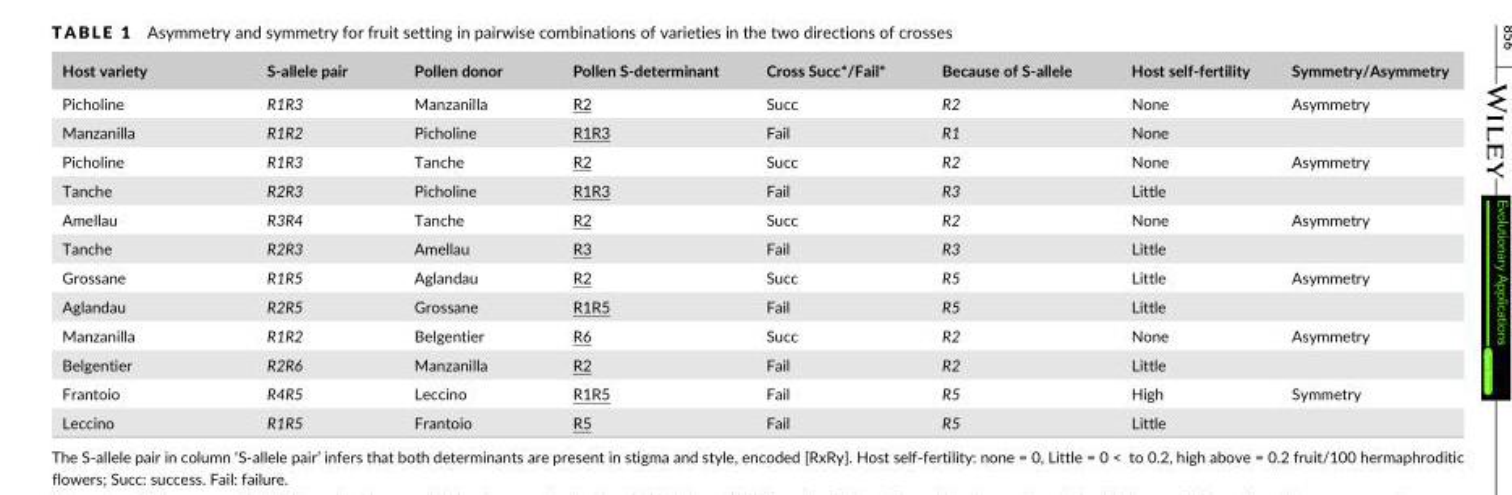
<table><thead><tr><td>Host variety</td><td>S- allele pair</td><td>Pollen donor</td><td>Pollen S- determinant</td><td>Cross Succ*/Fail*</td><td>Because of S- allele</td><td>Host self- fertility</td><td>Symmetry/Asymmetry</td></tr></thead><tbody><tr><td>Picholine</td><td>R1R3</td><td>Manzanilla</td><td>R2</td><td>Succ</td><td>R2</td><td>None</td><td>Asymmetry</td></tr><tr><td>Manzanilla</td><td>R1R2</td><td>Picholine</td><td>R1R3</td><td>Fail</td><td>R1</td><td>None</td><td></td></tr><tr><td>Picholine</td><td>R1R3</td><td>Tanche</td><td>R2</td><td>Succ</td><td>R2</td><td>None</td><td>Asymmetry</td></tr><tr><td>Tanche</td><td>R2R3</td><td>Picholine</td><td>R1R3</td><td>Fail</td><td>R3</td><td>Little</td><td></td></tr><tr><td>Amellau</td><td>R3R4</td><td>Tanche</td><td>R2</td><td>Succ</td><td>R2</td><td>None</td><td>Asymmetry</td></tr><tr><td>Tanche</td><td>R2R3</td><td>Amellau</td><td>R3</td><td>Fail</td><td>R3</td><td>Little</td><td></td></tr><tr><td>Grossane</td><td>R1R5</td><td>Aglandau</td><td>R2</td><td>Succ</td><td>R5</td><td>Little</td><td>Asymmetry</td></tr><tr><td>Aglandau</td><td>R2R5</td><td>Grossane</td><td>R1R5</td><td>Fail</td><td>R5</td><td>Little</td><td></td></tr><tr><td>Manzanilla</td><td>R1R2</td><td>Belgentier</td><td>R6</td><td>Succ</td><td>R2</td><td>None</td><td>Asymmetry</td></tr><tr><td>Belgentier</td><td>R2R6</td><td>Manzanilla</td><td>R2</td><td>Fail</td><td>R2</td><td>Little</td><td></td></tr><tr><td>Frantoio</td><td>R4R5</td><td>Leccino</td><td>R1R5</td><td>Fail</td><td>R5</td><td>High</td><td>Symmetry</td></tr><tr><td>Leccino</td><td>R1R5</td><td>Frantoio</td><td>R5</td><td>Fail</td><td>R5</td><td>Little</td><td></td></tr></tbody></table>